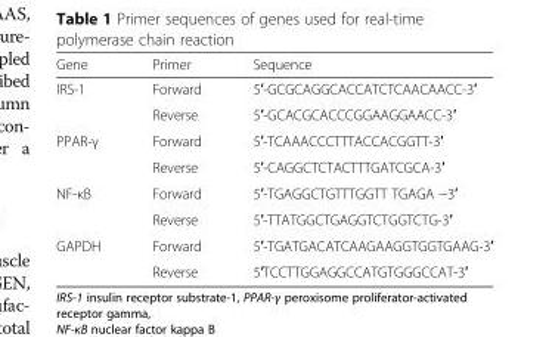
<table><thead><tr><td>Gene</td><td>Primer</td><td>Sequence</td></tr></thead><tbody><tr><td rowspan="2">IRS-1</td><td>Forward</td><td>5′-GCGCAGGCACCATCTCAACAACC-3′</td></tr><tr><td>Reverse</td><td>5′-GCACGCACCCGGAAGGAACC-3′</td></tr><tr><td rowspan="2">PPAR-γ</td><td>Forward</td><td>5′-TCAAACCCTTTACCACGGTT-3′</td></tr><tr><td>Reverse</td><td>5′-CAGGCTCTACTTTGATCGCA-3′</td></tr><tr><td rowspan="2">NF-κB</td><td>Forward</td><td>5′-TGAGGCTGTTTGGTT TGAGA −3′</td></tr><tr><td>Reverse</td><td>5′-TTATGGCTGAGGTCTGGTCTG-3′</td></tr><tr><td rowspan="2">GAPDH</td><td>Forward</td><td>5′-TGATGACATCAAGAAGGTGGTGAAG-3′</td></tr><tr><td>Reverse</td><td>5′TCCTTGGAGGCCATGTGGGCCAT-3′</td></tr></tbody></table>